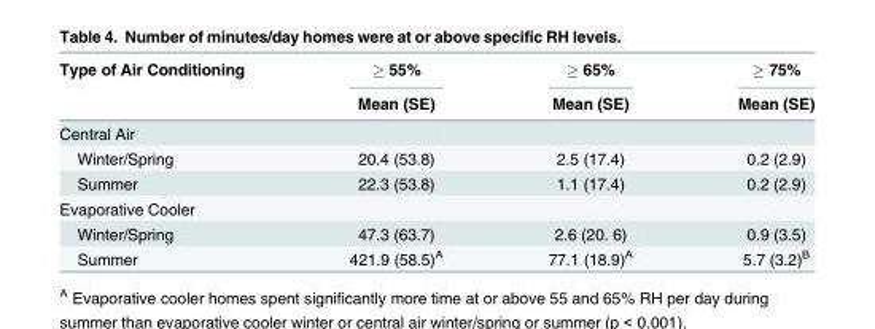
<table><thead><tr><td rowspan="2">Type of Air Conditioning</td><td rowspan="2">≥ 55% Mean (SE)</td><td rowspan="2">≥ 65% Mean (SE)</td><td rowspan="2">≥ 75% Mean (SE)</td></tr><tr></tr></thead><tbody><tr><td colspan="4">Central Air</td></tr><tr><td>Winter/Spring</td><td>20.4 (53.8)</td><td>2.5 (17.4)</td><td>0.2 (2.9)</td></tr><tr><td>Summer</td><td>22.3 (53.8)</td><td>1.1 (17.4)</td><td>0.2 (2.9)</td></tr><tr><td colspan="4">Evaporative Cooler</td></tr><tr><td>Winter/Spring</td><td>47.3 (63.7)</td><td>2.6 (20. 6)</td><td>0.9 (3.5)</td></tr><tr><td>Summer</td><td>421.9 (58.5)<sup>A</sup></td><td>77.1 (18.9)<sup>A</sup></td><td>5.7 (3.2)<sup>B</sup></td></tr></tbody></table>